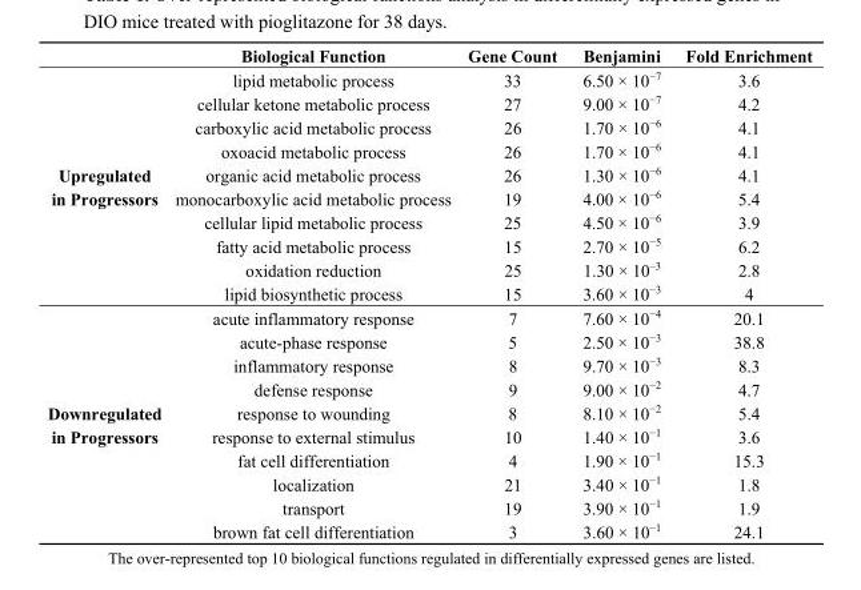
<table><thead><tr><td></td><td>Biological Function</td><td>Gene Count</td><td>Benjamini</td><td>Fold Enrichment</td></tr></thead><tbody><tr><td rowspan="10">Upregulated in Progressors</td><td>lipid metabolic process</td><td>33</td><td>6.50 × 10<sup>−7</sup></td><td>3.6</td></tr><tr><td>cellular ketone metabolic process</td><td>27</td><td>9.00 × 10<sup>−7</sup></td><td>4.2</td></tr><tr><td>carboxylic acid metabolic process</td><td>26</td><td>1.70 × 10<sup>−6</sup></td><td>4.1</td></tr><tr><td>oxoacid metabolic process</td><td>26</td><td>1.70 × 10<sup>−6</sup></td><td>4.1</td></tr><tr><td>organic acid metabolic process</td><td>26</td><td>1.30 × 10<sup>−6</sup></td><td>4.1</td></tr><tr><td>monocarboxylic acid metabolic process</td><td>19</td><td>4.00 × 10<sup>−6</sup></td><td>5.4</td></tr><tr><td>cellular lipid metabolic process</td><td>25</td><td>4.50 × 10<sup>−6</sup></td><td>3.9</td></tr><tr><td>fatty acid metabolic process</td><td>15</td><td>2.70 × 10<sup>−5</sup></td><td>6.2</td></tr><tr><td>oxidation reduction</td><td>25</td><td>1.30 × 10<sup>–3</sup></td><td>2.8</td></tr><tr><td>lipid biosynthetic process</td><td>15</td><td>3.60 × 10<sup>−3</sup></td><td>4</td></tr><tr><td rowspan="10">Downregulated in Progressors</td><td>acute inflammatory response</td><td>7</td><td>7.60 × 10<sup>−4</sup></td><td>20.1</td></tr><tr><td>acute-phase response</td><td>5</td><td>2.50 × 10<sup>−3</sup></td><td>38.8</td></tr><tr><td>inflammatory response</td><td>8</td><td>9.70 × 10<sup>−3</sup></td><td>8.3</td></tr><tr><td>defense response</td><td>9</td><td>9.00 × 10<sup>−2</sup></td><td>4.7</td></tr><tr><td>response to wounding</td><td>8</td><td>8.10 × 10<sup>−2</sup></td><td>5.4</td></tr><tr><td>response to external stimulus</td><td>10</td><td>1.40 × 10<sup>−1</sup></td><td>3.6</td></tr><tr><td>fat cell differentiation</td><td>4</td><td>1.90 × 10<sup>−1</sup></td><td>15.3</td></tr><tr><td>localization</td><td>21</td><td>3.40 × 10<sup>−1</sup></td><td>1.8</td></tr><tr><td>transport</td><td>19</td><td>3.90 × 10<sup>−1</sup></td><td>1.9</td></tr><tr><td>brown fat cell differentiation</td><td>3</td><td>3.60 × 10<sup>−1</sup></td><td>24.1</td></tr></tbody></table>